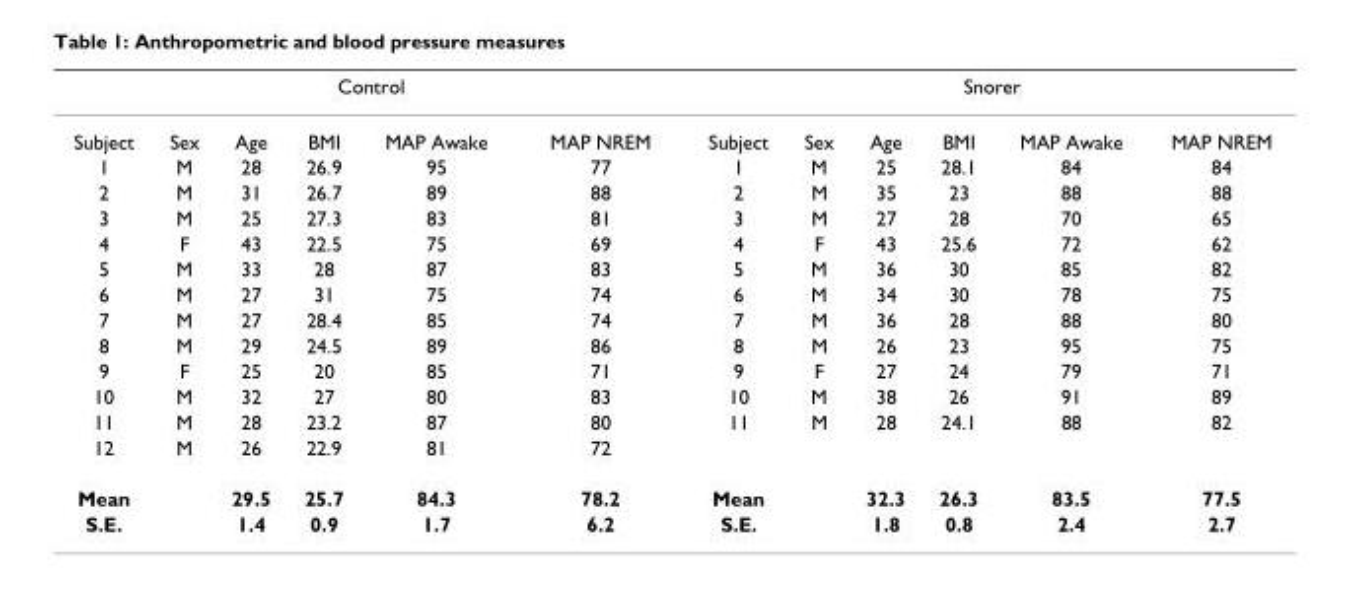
<table><thead><tr><td colspan="6">Control</td><td colspan="6">Snorer</td></tr><tr><td>Subject</td><td>Sex</td><td>Age</td><td>BMI</td><td>MAP Awake</td><td>MAP NREM</td><td>Subject</td><td>Sex</td><td>Age</td><td>BMI</td><td>MAP Awake</td><td>MAP NREM</td></tr></thead><tbody><tr><td>1</td><td>M</td><td>28</td><td>26.9</td><td>95</td><td>77</td><td>1</td><td>M</td><td>25</td><td>28.1</td><td>84</td><td>84</td></tr><tr><td>2</td><td>M</td><td>31</td><td>26.7</td><td>89</td><td>88</td><td>2</td><td>M</td><td>35</td><td>23</td><td>88</td><td>88</td></tr><tr><td>3</td><td>M</td><td>25</td><td>27.3</td><td>83</td><td>81</td><td>3</td><td>M</td><td>27</td><td>28</td><td>70</td><td>65</td></tr><tr><td>4</td><td>F</td><td>43</td><td>22.5</td><td>75</td><td>69</td><td>4</td><td>F</td><td>43</td><td>25.6</td><td>72</td><td>62</td></tr><tr><td>5</td><td>M</td><td>33</td><td>28</td><td>87</td><td>83</td><td>5</td><td>M</td><td>36</td><td>30</td><td>85</td><td>82</td></tr><tr><td>6</td><td>M</td><td>27</td><td>31</td><td>75</td><td>74</td><td>6</td><td>M</td><td>34</td><td>30</td><td>78</td><td>75</td></tr><tr><td>7</td><td>M</td><td>27</td><td>28.4</td><td>85</td><td>74</td><td>7</td><td>M</td><td>36</td><td>28</td><td>88</td><td>80</td></tr><tr><td>8</td><td>M</td><td>29</td><td>24.5</td><td>89</td><td>86</td><td>8</td><td>M</td><td>26</td><td>23</td><td>95</td><td>75</td></tr><tr><td>9</td><td>F</td><td>25</td><td>20</td><td>85</td><td>71</td><td>9</td><td>F</td><td>27</td><td>24</td><td>79</td><td>71</td></tr><tr><td>10</td><td>M</td><td>32</td><td>27</td><td>80</td><td>83</td><td>10</td><td>M</td><td>38</td><td>26</td><td>91</td><td>89</td></tr><tr><td>11</td><td>M</td><td>28</td><td>23.2</td><td>87</td><td>80</td><td>11</td><td>M</td><td>28</td><td>24.1</td><td>88</td><td>82</td></tr><tr><td>12</td><td>M</td><td>26</td><td>22.9</td><td>81</td><td>72</td><td></td><td></td><td></td><td></td><td></td><td></td></tr><tr><td>Mean</td><td></td><td>29.5</td><td>25.7</td><td>84.3</td><td>78.2</td><td>Mean</td><td></td><td>32.3</td><td>26.3</td><td>83.5</td><td>77.5</td></tr><tr><td>S.E.</td><td></td><td>1.4</td><td>0.9</td><td>1.7</td><td>6.2</td><td>S.E.</td><td></td><td>1.8</td><td>0.8</td><td>2.4</td><td>2.7</td></tr></tbody></table>